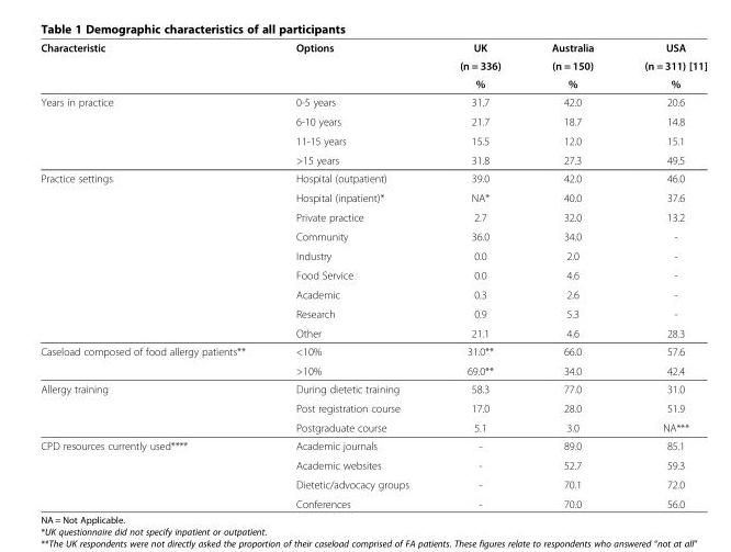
<table><thead><tr><td rowspan="3">Characteristic</td><td rowspan="3">Options</td><td rowspan="3">UK (n = 336) %</td><td rowspan="3">Australia (n = 150) %</td><td rowspan="3">USA (n = 311) %</td></tr><tr></tr><tr></tr></thead><tbody><tr><td rowspan="4">Years in practice</td><td>0-5 years</td><td>31.7</td><td>42.0</td><td>20.6</td></tr><tr><td>6-10 years</td><td>21.7</td><td>18.7</td><td>14.8</td></tr><tr><td>11-15 years</td><td>15.5</td><td>12.0</td><td>15.1</td></tr><tr><td>&gt;15 years</td><td>31.8</td><td>27.3</td><td>49.5</td></tr><tr><td rowspan="9">Practice settings</td><td>Hospital (outpatient)</td><td>39.0</td><td>42.0</td><td>46.0</td></tr><tr><td>Hospital (inpatient)*</td><td>NA*</td><td>40.0</td><td>37.6</td></tr><tr><td>Private practice</td><td>2.7</td><td>32.0</td><td>13.2</td></tr><tr><td>Community</td><td>36.0</td><td>34.0</td><td>-</td></tr><tr><td>Industry</td><td>0.0</td><td>2.0</td><td>-</td></tr><tr><td>Food Service</td><td>0.0</td><td>4.6</td><td>-</td></tr><tr><td>Academic</td><td>0.3</td><td>2.6</td><td>-</td></tr><tr><td>Research</td><td>0.9</td><td>5.3</td><td>-</td></tr><tr><td>Other</td><td>21.1</td><td>4.6</td><td>28.3</td></tr><tr><td rowspan="2">Caseload composed of food allergy patients**</td><td>&lt;10%</td><td>31.0**</td><td>66.0</td><td>57.6</td></tr><tr><td>&gt;10%</td><td>69.0**</td><td>34.0</td><td>42.4</td></tr><tr><td rowspan="3">Allergy training</td><td>During dietetic training</td><td>58.3</td><td>77.0</td><td>31.0</td></tr><tr><td>Post registration course</td><td>17.0</td><td>28.0</td><td>51.9</td></tr><tr><td>Postgraduate course</td><td>5.1</td><td>3.0</td><td>NA***</td></tr><tr><td rowspan="4">CPD resources currently used****</td><td>Academic journals</td><td>-</td><td>89.0</td><td>85.1</td></tr><tr><td>Academic websites</td><td>-</td><td>52.7</td><td>59.3</td></tr><tr><td>Dietetic/advocacy groups</td><td>-</td><td>70.1</td><td>72.0</td></tr><tr><td>Conferences</td><td>-</td><td>70.0</td><td>56.0</td></tr></tbody></table>